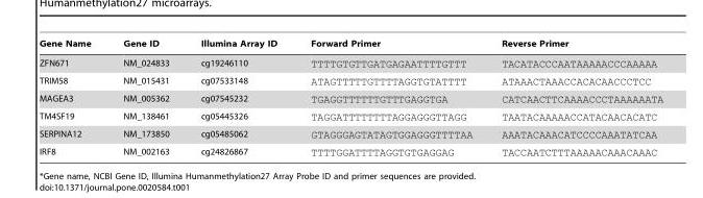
<table><thead><tr><td>Gene Name</td><td>Gene ID</td><td>Illumina Array ID</td><td>Forward Primer</td><td>Reverse Primer</td></tr></thead><tbody><tr><td>ZFN671</td><td>NM_024833</td><td>cg19246110</td><td>TTTTGTGTTGATGAGAATTTTGTTT</td><td>TACATACCCAATAAAAACCCAAAAA</td></tr><tr><td>TRIM58</td><td>NM_015431</td><td>cg07533148</td><td>ATAGTTTTTGTTTTAGGTGTATTTT</td><td>ATAAACTAAACCACACAACCCTCC</td></tr><tr><td>MAGEA3</td><td>NM_005362</td><td>cg07545232</td><td>TGAGGTTTTTTGTTTGAGGTGA</td><td>CATCAACTTCAAAACCCTAAAAAATA</td></tr><tr><td>TM4SF19</td><td>NM_138461</td><td>cg05445326</td><td>TAGGATTTTTTTTAGGAGGGTTAGG</td><td>TAATACAAAAACCATACAACACATC</td></tr><tr><td>SERPINA12</td><td>NM_173850</td><td>cg05485062</td><td>GTAGGGAGTATAGTGGAGGGTTTTAA</td><td>AAATACAAACATCCCCAAATATCAA</td></tr><tr><td>IRF8</td><td>NM_002163</td><td>cg24826867</td><td>TTTTGGATTTTAGGTGTGAGGAG</td><td>TACCAATCTTTAAAAACAAACAAAC</td></tr></tbody></table>